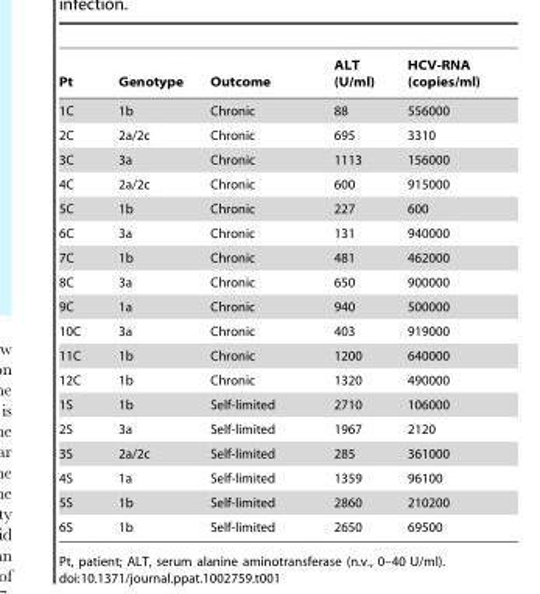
<table><thead><tr><td>Pt</td><td>Genotype</td><td>Outcome</td><td>ALT (U/ml)</td><td>HCV-RNA (copies/ml)</td></tr></thead><tbody><tr><td>1C</td><td>1b</td><td>Chronic</td><td>88</td><td>556000</td></tr><tr><td>2C</td><td>2a/2c</td><td>Chronic</td><td>695</td><td>3310</td></tr><tr><td>3C</td><td>3a</td><td>Chronic</td><td>1113</td><td>156000</td></tr><tr><td>4C</td><td>2a/2c</td><td>Chronic</td><td>600</td><td>915000</td></tr><tr><td>5C</td><td>1b</td><td>Chronic</td><td>227</td><td>600</td></tr><tr><td>6C</td><td>3a</td><td>Chronic</td><td>131</td><td>940000</td></tr><tr><td>7C</td><td>1b</td><td>Chronic</td><td>481</td><td>462000</td></tr><tr><td>8C</td><td>3a</td><td>Chronic</td><td>650</td><td>900000</td></tr><tr><td>9C</td><td>1a</td><td>Chronic</td><td>940</td><td>500000</td></tr><tr><td>10C</td><td>3a</td><td>Chronic</td><td>403</td><td>919000</td></tr><tr><td>11C</td><td>1b</td><td>Chronic</td><td>1200</td><td>640000</td></tr><tr><td>12C</td><td>1b</td><td>Chronic</td><td>1320</td><td>490000</td></tr><tr><td>1S</td><td>1b</td><td>Self-limited</td><td>2710</td><td>106000</td></tr><tr><td>2S</td><td>3a</td><td>Self-limited</td><td>1967</td><td>2120</td></tr><tr><td>3S</td><td>2a/2c</td><td>Self-limited</td><td>285</td><td>361000</td></tr><tr><td>4S</td><td>1a</td><td>Self-limited</td><td>1359</td><td>96100</td></tr><tr><td>5S</td><td>1b</td><td>Self-limited</td><td>2860</td><td>210200</td></tr><tr><td>6S</td><td>1b</td><td>Self-limited</td><td>2650</td><td>69500</td></tr></tbody></table>